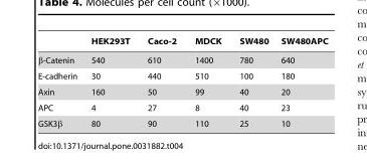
<table><thead><tr><td></td><td>HEK293T</td><td>Caco-2</td><td>MDCK</td><td>SW480</td><td>SW480APC</td></tr></thead><tbody><tr><td>β-Catenin</td><td>540</td><td>610</td><td>1400</td><td>780</td><td>640</td></tr><tr><td>E-cadherin</td><td>30</td><td>440</td><td>510</td><td>100</td><td>180</td></tr><tr><td>Axin</td><td>160</td><td>50</td><td>99</td><td>40</td><td>20</td></tr><tr><td>APC</td><td>4</td><td>27</td><td>8</td><td>40</td><td>23</td></tr><tr><td>GSK3β</td><td>80</td><td>90</td><td>110</td><td>25</td><td>10</td></tr></tbody></table>